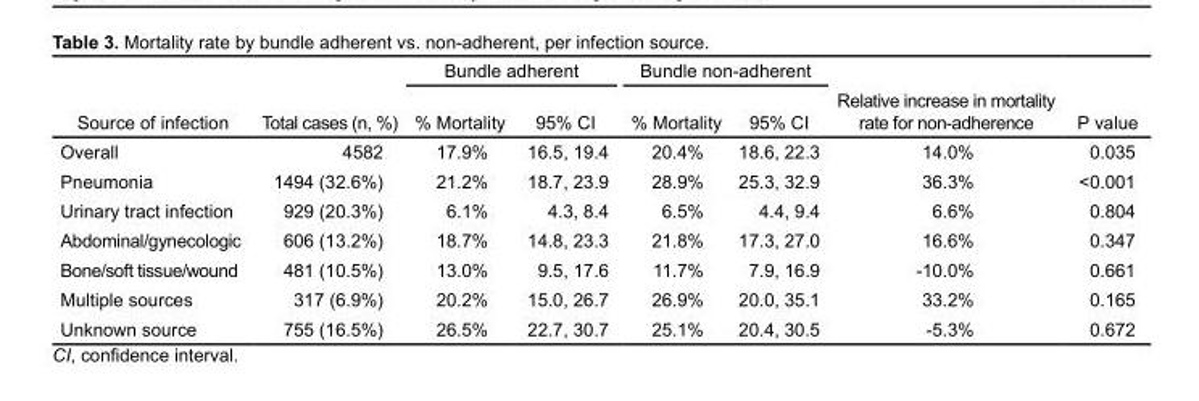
<table><thead><tr><td rowspan="2">Source of infection</td><td rowspan="2">Total cases (n, %)</td><td colspan="2">Bundle adherent</td><td colspan="2">Bundle non-adherent</td><td rowspan="2">Relative increase in mortality rate for non-adherence</td><td rowspan="2">P value</td></tr><tr><td>% Mortality</td><td>95% CI</td><td>% Mortality</td><td>95% CI</td></tr></thead><tbody><tr><td>Overall</td><td>4582</td><td>17.9%</td><td>16.5, 19.4</td><td>20.4%</td><td>18.6, 22.3</td><td>14.0%</td><td>0.035</td></tr><tr><td>Pneumonia</td><td>1494 (32.6%)</td><td>21.2%</td><td>18.7, 23.9</td><td>28.9%</td><td>25.3, 32.9</td><td>36.3%</td><td>&lt;0.001</td></tr><tr><td>Urinary tract infection</td><td>929 (20.3%)</td><td>6.1%</td><td>4.3, 8.4</td><td>6.5%</td><td>4.4, 9.4</td><td>6.6%</td><td>0.804</td></tr><tr><td>Abdominal/gynecologic</td><td>606 (13.2%)</td><td>18.7%</td><td>14.8, 23.3</td><td>21.8%</td><td>17.3, 27.0</td><td>16.6%</td><td>0.347</td></tr><tr><td>Bone/soft tissue/wound</td><td>481 (10.5%)</td><td>13.0%</td><td>9.5, 17.6</td><td>11.7%</td><td>7.9, 16.9</td><td>-10.0%</td><td>0.661</td></tr><tr><td>Multiple sources</td><td>317 (6.9%)</td><td>20.2%</td><td>15.0, 26.7</td><td>26.9%</td><td>20.0, 35.1</td><td>33.2%</td><td>0.165</td></tr><tr><td>Unknown source</td><td>755 (16.5%)</td><td>26.5%</td><td>22.7, 30.7</td><td>25.1%</td><td>20.4, 30.5</td><td>-5.3%</td><td>0.672</td></tr></tbody></table>